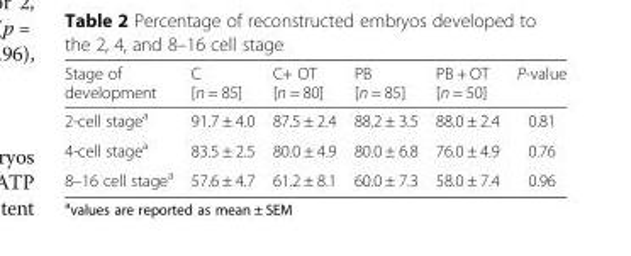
<table><thead><tr><td>Stage of development</td><td>C [n = 85]</td><td>C+ OT [n = 80]</td><td>PB [n = 85]</td><td>PB + OT [n = 50]</td><td>P-value</td></tr></thead><tbody><tr><td>2-cell stage<sup>a</sup></td><td>91.7 ± 4.0</td><td>87.5 ± 2.4</td><td>88.2 ± 3.5</td><td>88.0 ± 2.4</td><td>0.81</td></tr><tr><td>4-cell stage<sup>a</sup></td><td>83.5 ± 2.5</td><td>80.0 ± 4.9</td><td>80.0 ± 6.8</td><td>76.0 ± 4.9</td><td>0.76</td></tr><tr><td>8–16 cell stage<sup>a</sup></td><td>57.6 ± 4.7</td><td>61.2 ± 8.1</td><td>60.0 ± 7.3</td><td>58.0 ± 7.4</td><td>0.96</td></tr></tbody></table>